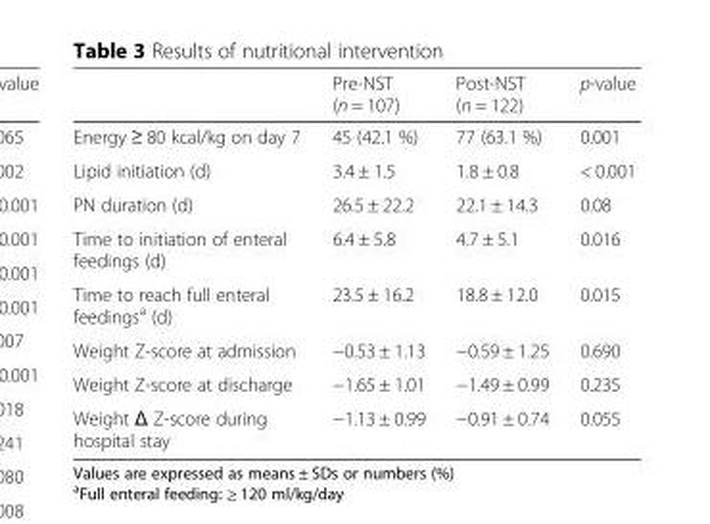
<table><thead><tr><td></td><td>Pre-NST (n = 107)</td><td>Post-NST (n = 122)</td><td>p-value</td></tr></thead><tbody><tr><td>Energy ≥ 80 kcal/kg on day 7</td><td>45 (42.1 %)</td><td>77 (63.1 %)</td><td>0.001</td></tr><tr><td>Lipid initiation (d)</td><td>3.4 ± 1.5</td><td>1.8 ± 0.8</td><td>&lt; 0.001</td></tr><tr><td>PN duration (d)</td><td>26.5 ± 22.2</td><td>22.1 ± 14.3</td><td>0.08</td></tr><tr><td>Time to initiation of enteral feedings (d)</td><td>6.4 ± 5.8</td><td>4.7 ± 5.1</td><td>0.016</td></tr><tr><td>Time to reach full enteral feedings<sup>a</sup> (d)</td><td>23.5 ± 16.2</td><td>18.8 ± 12.0</td><td>0.015</td></tr><tr><td>Weight Z-score at admission</td><td>−0.53 ± 1.13</td><td>−0.59 ± 1.25</td><td>0.690</td></tr><tr><td>Weight Z-score at discharge</td><td>−1.65 ± 1.01</td><td>−1.49 ± 0.99</td><td>0.235</td></tr><tr><td>Weight Δ Z-score during hospital stay</td><td>−1.13 ± 0.99</td><td>−0.91 ± 0.74</td><td>0.055</td></tr></tbody></table>